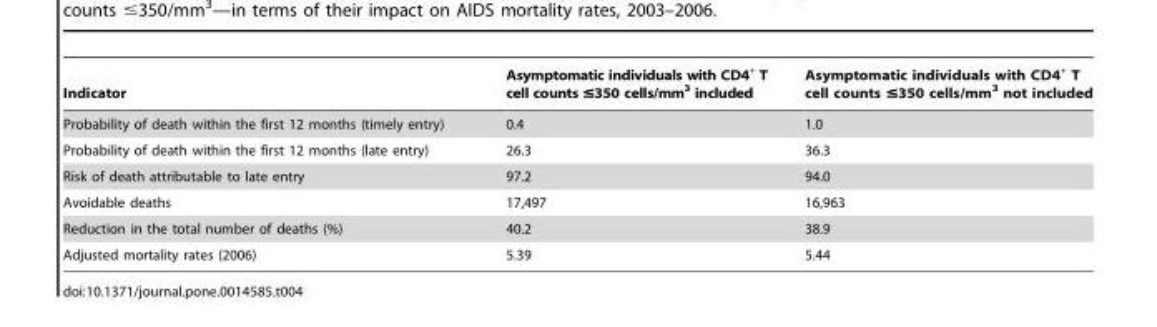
<table><thead><tr><td>Indicator</td><td>Asymptomatic individuals with CD4<sup>+</sup> T cell counts ≤350 cells/mm<sup>3</sup> included</td><td>Asymptomatic individuals with CD4<sup>+</sup> T cell counts ≤350 cells/mm<sup>3</sup> not included</td></tr></thead><tbody><tr><td>Probability of death within the first 12 months (timely entry)</td><td>0.4</td><td>1.0</td></tr><tr><td>Probability of death within the first 12 months (late entry)</td><td>26.3</td><td>36.3</td></tr><tr><td>Risk of death attributable to late entry</td><td>97.2</td><td>94.0</td></tr><tr><td>Avoidable deaths</td><td>17,497</td><td>16,963</td></tr><tr><td>Reduction in the total number of deaths (%)</td><td>40.2</td><td>38.9</td></tr><tr><td>Adjusted mortality rates (2006)</td><td>5.39</td><td>5.44</td></tr></tbody></table>